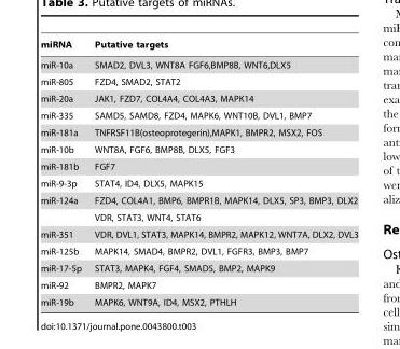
<table><thead><tr><td>miRNA</td><td>Putative targets</td></tr></thead><tbody><tr><td>miR-10a</td><td>SMAD2, DVL3, WNT8A FGF6,BMP8B, WNT6,DLX5</td></tr><tr><td>miR-805</td><td>FZD4, SMAD2, STAT2</td></tr><tr><td>miR-20a</td><td>JAK1, FZD7, COL4A4, COL4A3, MAPK14</td></tr><tr><td>miR-335</td><td>SAMD5, SAMD8, FZD4, MAPK6, WNT10B, DVL1, BMP7</td></tr><tr><td>miR-181a</td><td>TNFRSF11B(osteoprotegerin),MAPK1, BMPR2, MSX2, FOS</td></tr><tr><td>miR-10b</td><td>WNT8A, FGF6, BMP8B, DLX5, FGF3</td></tr><tr><td>miR-181b</td><td>FGF7</td></tr><tr><td>miR-9-3p</td><td>STAT4, ID4, DLX5, MAPK15</td></tr><tr><td rowspan="2">miR-124a</td><td>FZD4, COL4A1, BMP6, BMPR1B, MAPK14, DLX5, SP3, BMP3, DLX2</td></tr><tr><td>VDR, STAT3, WNT4, STAT6</td></tr><tr><td>miR-351</td><td>VDR, DVL1, STAT3, MAPK14, BMPR2, MAPK12, WNT7A, DLX2, DVL3</td></tr><tr><td>miR-125b</td><td>MAPK14, SMAD4, BMPR2, DVL1, FGFR3, BMP3, BMP7</td></tr><tr><td>miR-17-5p</td><td>STAT3, MAPK4, FGF4, SMAD5, BMP2, MAPK9</td></tr><tr><td>miR-92</td><td>BMPR2, MAPK7</td></tr><tr><td>miR-19b</td><td>MAPK6, WNT9A, ID4, MSX2, PTHLH</td></tr></tbody></table>